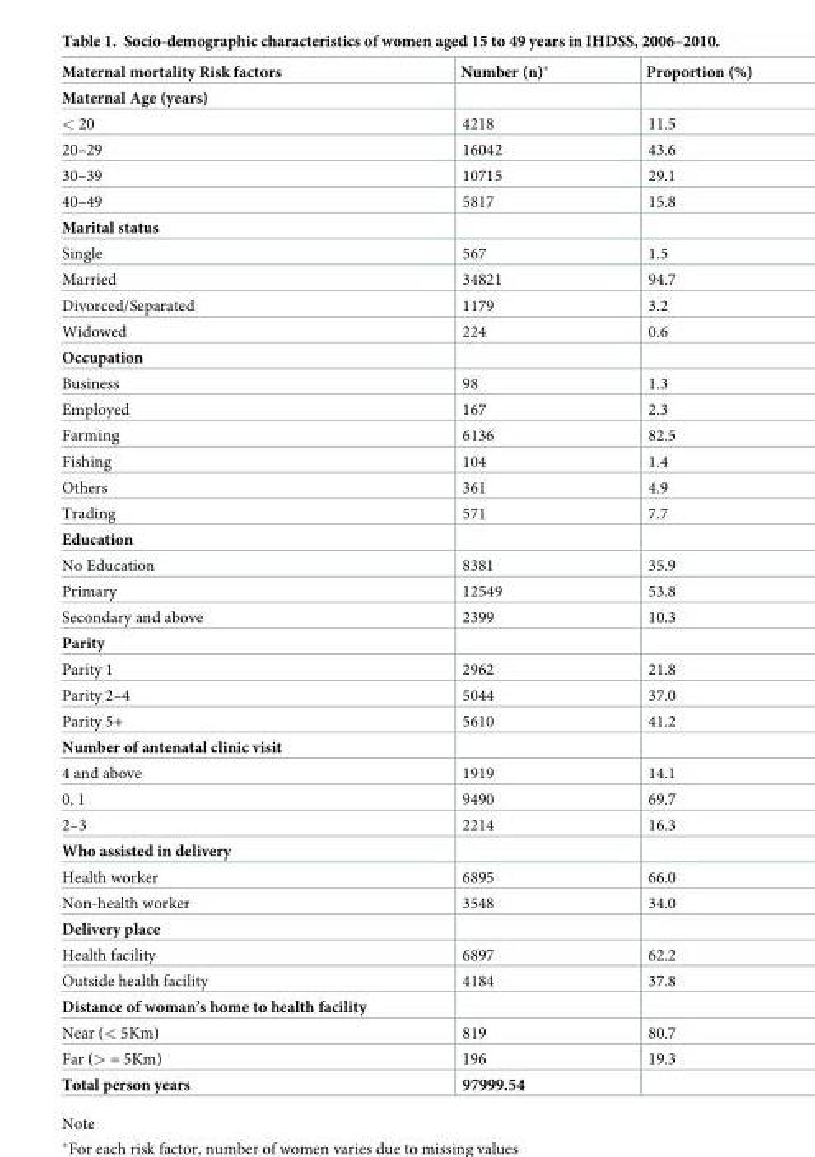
<table><thead><tr><td>Maternal mortality Risk factors</td><td>Number (n)*</td><td>Proportion (%)</td></tr></thead><tbody><tr><td colspan="3">Maternal Age (years)</td></tr><tr><td>&lt; 20</td><td>4218</td><td>11.5</td></tr><tr><td>20–29</td><td>16042</td><td>43.6</td></tr><tr><td>30–39</td><td>10715</td><td>29.1</td></tr><tr><td>40–49</td><td>5817</td><td>15.8</td></tr><tr><td colspan="3">Marital status</td></tr><tr><td>Single</td><td>567</td><td>1.5</td></tr><tr><td>Married</td><td>34821</td><td>94.7</td></tr><tr><td>Divorced/Separated</td><td>1179</td><td>3.2</td></tr><tr><td>Widowed</td><td>224</td><td>0.6</td></tr><tr><td colspan="3">Occupation</td></tr><tr><td>Business</td><td>98</td><td>1.3</td></tr><tr><td>Employed</td><td>167</td><td>2.3</td></tr><tr><td>Farming</td><td>6136</td><td>82.5</td></tr><tr><td>Fishing</td><td>104</td><td>1.4</td></tr><tr><td>Others</td><td>361</td><td>4.9</td></tr><tr><td>Trading</td><td>571</td><td>7.7</td></tr><tr><td colspan="3">Education</td></tr><tr><td>No Education</td><td>8381</td><td>35.9</td></tr><tr><td>Primary</td><td>12549</td><td>53.8</td></tr><tr><td>Secondary and above</td><td>2399</td><td>10.3</td></tr><tr><td colspan="3">Parity</td></tr><tr><td>Parity 1</td><td>2962</td><td>21.8</td></tr><tr><td>Parity 2–4</td><td>5044</td><td>37.0</td></tr><tr><td>Parity 5+</td><td>5610</td><td>41.2</td></tr><tr><td colspan="3">Number of antenatal clinic visit</td></tr><tr><td>4 and above</td><td>1919</td><td>14.1</td></tr><tr><td>0, 1</td><td>9490</td><td>69.7</td></tr><tr><td>2–3</td><td>2214</td><td>16.3</td></tr><tr><td colspan="3">Who assisted in delivery</td></tr><tr><td>Health worker</td><td>6895</td><td>66.0</td></tr><tr><td>Non-health worker</td><td>3548</td><td>34.0</td></tr><tr><td colspan="3">Delivery place</td></tr><tr><td>Health facility</td><td>6897</td><td>62.2</td></tr><tr><td>Outside health facility</td><td>4184</td><td>37.8</td></tr><tr><td colspan="3">Distance of woman’s home to health facility</td></tr><tr><td>Near (&lt; 5Km)</td><td>819</td><td>80.7</td></tr><tr><td>Far (&gt; = 5Km)</td><td>196</td><td>19.3</td></tr><tr><td>Total person years</td><td>97999.54</td><td></td></tr></tbody></table>